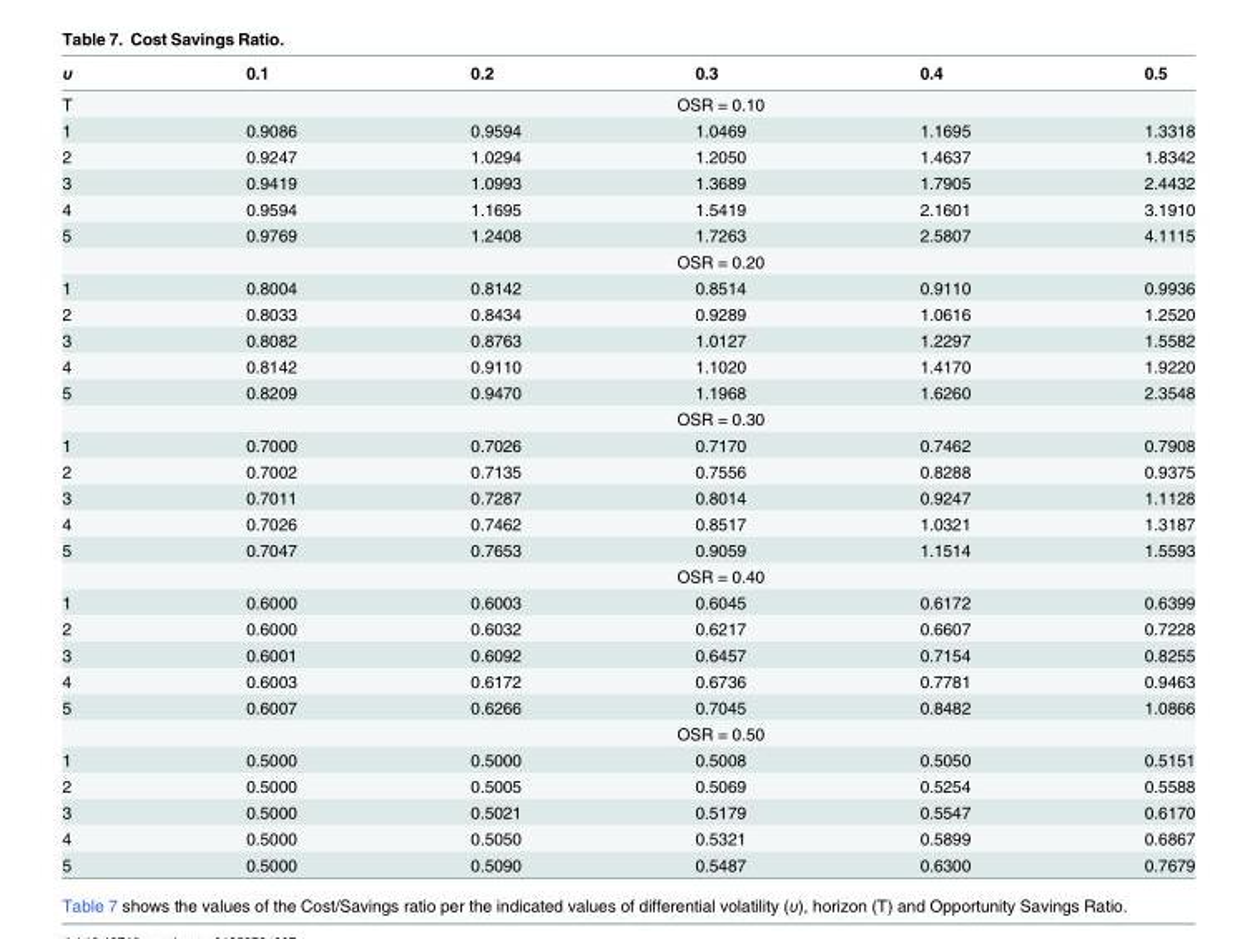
<table><thead><tr><td>υ</td><td>0.1</td><td>0.2</td><td>0.3</td><td>0.4</td><td>0.5</td></tr></thead><tbody><tr><td>T</td><td colspan="5">OSR = 0.10</td></tr><tr><td>1</td><td>0.9086</td><td>0.9594</td><td>1.0469</td><td>1.1695</td><td>1.3318</td></tr><tr><td>2</td><td>0.9247</td><td>1.0294</td><td>1.2050</td><td>1.4637</td><td>1.8342</td></tr><tr><td>3</td><td>0.9419</td><td>1.0993</td><td>1.3689</td><td>1.7905</td><td>2.4432</td></tr><tr><td>4</td><td>0.9594</td><td>1.1695</td><td>1.5419</td><td>2.1601</td><td>3.1910</td></tr><tr><td rowspan="2">5</td><td>0.9769</td><td>1.2408</td><td>1.7263</td><td>2.5807</td><td>4.1115</td></tr><tr><td colspan="5">OSR = 0.20</td></tr><tr><td>1</td><td>0.8004</td><td>0.8142</td><td>0.8514</td><td>0.9110</td><td>0.9936</td></tr><tr><td>2</td><td>0.8033</td><td>0.8434</td><td>0.9289</td><td>1.0616</td><td>1.2520</td></tr><tr><td>3</td><td>0.8082</td><td>0.8763</td><td>1.0127</td><td>1.2297</td><td>1.5582</td></tr><tr><td>4</td><td>0.8142</td><td>0.9110</td><td>1.1020</td><td>1.4170</td><td>1.9220</td></tr><tr><td rowspan="2">5</td><td>0.8209</td><td>0.9470</td><td>1.1968</td><td>1.6260</td><td>2.3548</td></tr><tr><td colspan="5">OSR = 0.30</td></tr><tr><td>1</td><td>0.7000</td><td>0.7026</td><td>0.7170</td><td>0.7462</td><td>0.7908</td></tr><tr><td>2</td><td>0.7002</td><td>0.7135</td><td>0.7556</td><td>0.8288</td><td>0.9375</td></tr><tr><td>3</td><td>0.7011</td><td>0.7287</td><td>0.8014</td><td>0.9247</td><td>1.1128</td></tr><tr><td>4</td><td>0.7026</td><td>0.7462</td><td>0.8517</td><td>1.0321</td><td>1.3187</td></tr><tr><td rowspan="2">5</td><td>0.7047</td><td>0.7653</td><td>0.9059</td><td>1.1514</td><td>1.5593</td></tr><tr><td colspan="5">OSR = 0.40</td></tr><tr><td>1</td><td>0.6000</td><td>0.6003</td><td>0.6045</td><td>0.6172</td><td>0.6399</td></tr><tr><td>2</td><td>0.6000</td><td>0.6032</td><td>0.6217</td><td>0.6607</td><td>0.7228</td></tr><tr><td>3</td><td>0.6001</td><td>0.6092</td><td>0.6457</td><td>0.7154</td><td>0.8255</td></tr><tr><td>4</td><td>0.6003</td><td>0.6172</td><td>0.6736</td><td>0.7781</td><td>0.9463</td></tr><tr><td rowspan="2">5</td><td>0.6007</td><td>0.6266</td><td>0.7045</td><td>0.8482</td><td>1.0866</td></tr><tr><td colspan="5">OSR = 0.50</td></tr><tr><td>1</td><td>0.5000</td><td>0.5000</td><td>0.5008</td><td>0.5050</td><td>0.5151</td></tr><tr><td>2</td><td>0.5000</td><td>0.5005</td><td>0.5069</td><td>0.5254</td><td>0.5588</td></tr><tr><td>3</td><td>0.5000</td><td>0.5021</td><td>0.5179</td><td>0.5547</td><td>0.6170</td></tr><tr><td>4</td><td>0.5000</td><td>0.5050</td><td>0.5321</td><td>0.5899</td><td>0.6867</td></tr><tr><td>5</td><td>0.5000</td><td>0.5090</td><td>0.5487</td><td>0.6300</td><td>0.7679</td></tr></tbody></table>